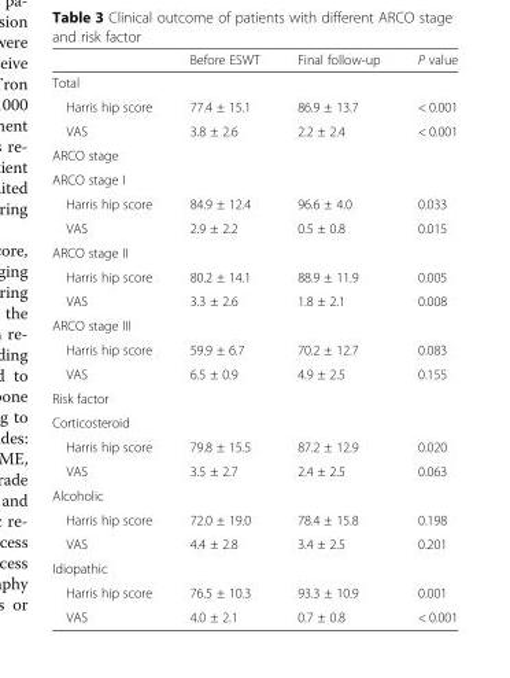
<table><thead><tr><td></td><td>Before ESWT</td><td>Final follow-up</td><td>P value</td></tr></thead><tbody><tr><td colspan="4">Total</td></tr><tr><td>Harris hip score</td><td>77.4 ± 15.1</td><td>86.9 ± 13.7</td><td>&lt; 0.001</td></tr><tr><td>VAS</td><td>3.8 ± 2.6</td><td>2.2 ± 2.4</td><td>&lt; 0.001</td></tr><tr><td colspan="4">ARCO stage</td></tr><tr><td colspan="4">ARCO stage I</td></tr><tr><td>Harris hip score</td><td>84.9 ± 12.4</td><td>96.6 ± 4.0</td><td>0.033</td></tr><tr><td>VAS</td><td>2.9 ± 2.2</td><td>0.5 ± 0.8</td><td>0.015</td></tr><tr><td colspan="4">ARCO stage II</td></tr><tr><td>Harris hip score</td><td>80.2 ± 14.1</td><td>88.9 ± 11.9</td><td>0.005</td></tr><tr><td>VAS</td><td>3.3 ± 2.6</td><td>1.8 ± 2.1</td><td>0.008</td></tr><tr><td colspan="4">ARCO stage III</td></tr><tr><td>Harris hip score</td><td>59.9 ± 6.7</td><td>70.2 ± 12.7</td><td>0.083</td></tr><tr><td>VAS</td><td>6.5 ± 0.9</td><td>4.9 ± 2.5</td><td>0.155</td></tr><tr><td colspan="4">Risk factor</td></tr><tr><td colspan="4">Corticosteroid</td></tr><tr><td>Harris hip score</td><td>79.8 ± 15.5</td><td>87.2 ± 12.9</td><td>0.020</td></tr><tr><td>VAS</td><td>3.5 ± 2.7</td><td>2.4 ± 2.5</td><td>0.063</td></tr><tr><td colspan="4">Alcoholic</td></tr><tr><td>Harris hip score</td><td>72.0 ± 19.0</td><td>78.4 ± 15.8</td><td>0.198</td></tr><tr><td>VAS</td><td>4.4 ± 2.8</td><td>3.4 ± 2.5</td><td>0.201</td></tr><tr><td colspan="4">Idiopathic</td></tr><tr><td>Harris hip score</td><td>76.5 ± 10.3</td><td>93.3 ± 10.9</td><td>0.001</td></tr><tr><td>VAS</td><td>4.0 ± 2.1</td><td>0.7 ± 0.8</td><td>&lt; 0.001</td></tr></tbody></table>